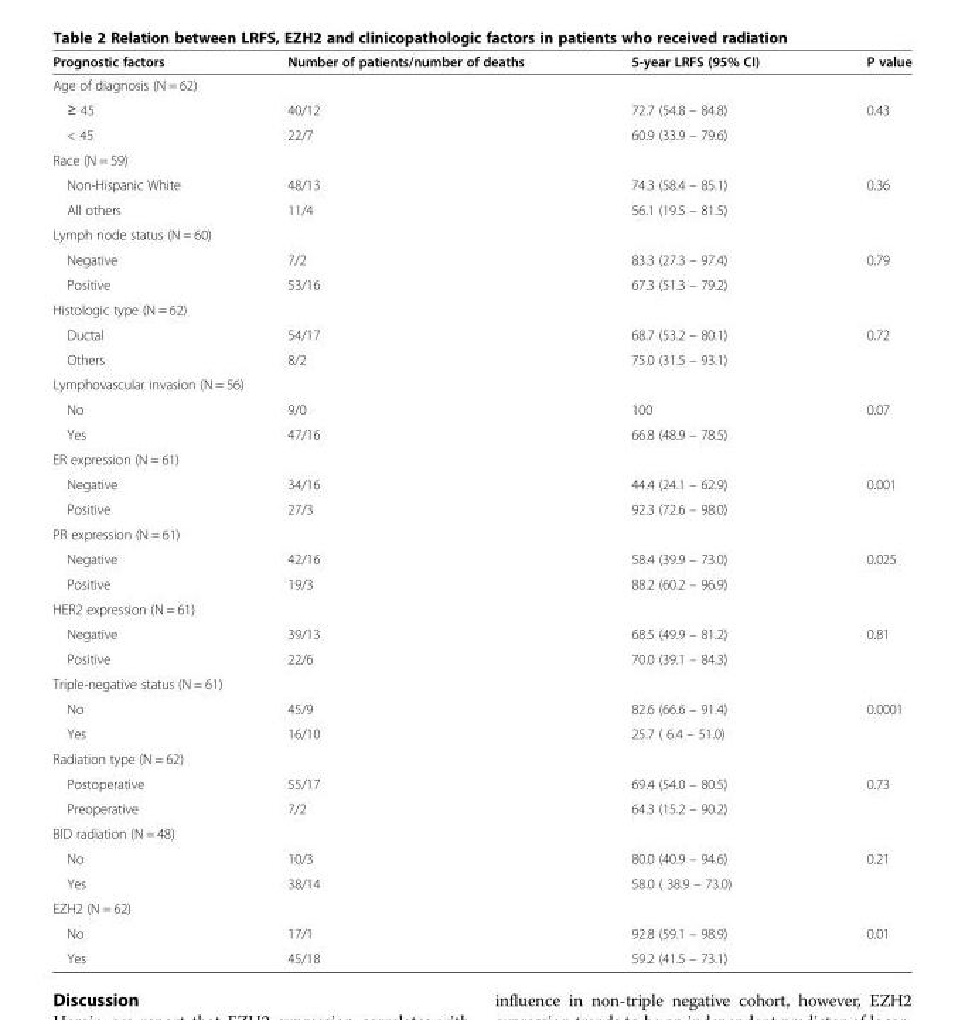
<table><thead><tr><td>Prognostic factors</td><td>Number of patients/number of deaths</td><td>5-year LRFS (95% CI)</td><td>P value</td></tr></thead><tbody><tr><td colspan="4">Age of diagnosis (N = 62)</td></tr><tr><td>≥ 45</td><td>40/12</td><td>72.7 (54.8 – 84.8)</td><td rowspan="2">0.43</td></tr><tr><td>&lt; 45</td><td>22/7</td><td>60.9 (33.9 – 79.6)</td></tr><tr><td colspan="4">Race (N = 59)</td></tr><tr><td>Non-Hispanic White</td><td>48/13</td><td>74.3 (58.4 – 85.1)</td><td rowspan="2">0.36</td></tr><tr><td>All others</td><td>11/4</td><td>56.1 (19.5 – 81.5)</td></tr><tr><td colspan="4">Lymph node status (N = 60)</td></tr><tr><td>Negative</td><td>7/2</td><td>83.3 (27.3 – 97.4)</td><td rowspan="2">0.79</td></tr><tr><td>Positive</td><td>53/16</td><td>67.3 (51.3 – 79.2)</td></tr><tr><td colspan="4">Histologic type (N = 62)</td></tr><tr><td>Ductal</td><td>54/17</td><td>68.7 (53.2 – 80.1)</td><td rowspan="2">0.72</td></tr><tr><td>Others</td><td>8/2</td><td>75.0 (31.5 – 93.1)</td></tr><tr><td colspan="4">Lymphovascular invasion (N = 56)</td></tr><tr><td>No</td><td>9/0</td><td>100</td><td rowspan="2">0.07</td></tr><tr><td>Yes</td><td>47/16</td><td>66.8 (48.9 – 78.5)</td></tr><tr><td colspan="4">ER expression (N = 61)</td></tr><tr><td>Negative</td><td>34/16</td><td>44.4 (24.1 – 62.9)</td><td rowspan="2">0.001</td></tr><tr><td>Positive</td><td>27/3</td><td>92.3 (72.6 – 98.0)</td></tr><tr><td colspan="4">PR expression (N = 61)</td></tr><tr><td>Negative</td><td>42/16</td><td>58.4 (39.9 – 73.0)</td><td rowspan="2">0.025</td></tr><tr><td>Positive</td><td>19/3</td><td>88.2 (60.2 – 96.9)</td></tr><tr><td colspan="4">HER2 expression (N = 61)</td></tr><tr><td>Negative</td><td>39/13</td><td>68.5 (49.9 – 81.2)</td><td rowspan="2">0.81</td></tr><tr><td>Positive</td><td>22/6</td><td>70.0 (39.1 – 84.3)</td></tr><tr><td colspan="4">Triple-negative status (N = 61)</td></tr><tr><td>No</td><td>45/9</td><td>82.6 (66.6 – 91.4)</td><td rowspan="2">0.0001</td></tr><tr><td>Yes</td><td>16/10</td><td>25.7 ( 6.4 – 51.0)</td></tr><tr><td colspan="4">Radiation type (N = 62)</td></tr><tr><td>Postoperative</td><td>55/17</td><td>69.4 (54.0 – 80.5)</td><td rowspan="2">0.73</td></tr><tr><td>Preoperative</td><td>7/2</td><td>64.3 (15.2 – 90.2)</td></tr><tr><td colspan="4">BID radiation (N = 48)</td></tr><tr><td>No</td><td>10/3</td><td>80.0 (40.9 – 94.6)</td><td rowspan="2">0.21</td></tr><tr><td>Yes</td><td>38/14</td><td>58.0 ( 38.9 – 73.0)</td></tr><tr><td colspan="4">EZH2 (N = 62)</td></tr><tr><td>No</td><td>17/1</td><td>92.8 (59.1 – 98.9)</td><td rowspan="2">0.01</td></tr><tr><td>Yes</td><td>45/18</td><td>59.2 (41.5 – 73.1)</td></tr></tbody></table>